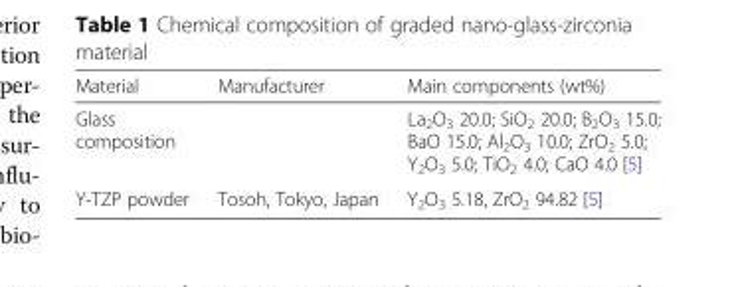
<table><thead><tr><td>Material</td><td>Manufacturer</td><td>Main components (wt%)</td></tr></thead><tbody><tr><td>Glass composition</td><td></td><td>La<sub>2</sub>O<sub>3</sub> 20.0; SiO<sub>2</sub> 20.0; B<sub>2</sub>O<sub>3</sub> 15.0; BaO 15.0; Al<sub>2</sub>O<sub>3</sub> 10.0; ZrO<sub>2</sub> 5.0; Y<sub>2</sub>O<sub>3</sub> 5.0; TiO<sub>2</sub> 4.0; CaO 4.0 [5]</td></tr><tr><td>Y-TZP powder</td><td>Tosoh, Tokyo, Japan</td><td>Y<sub>2</sub>O<sub>3</sub> 5.18, ZrO<sub>2</sub> 94.82 [5]</td></tr></tbody></table>